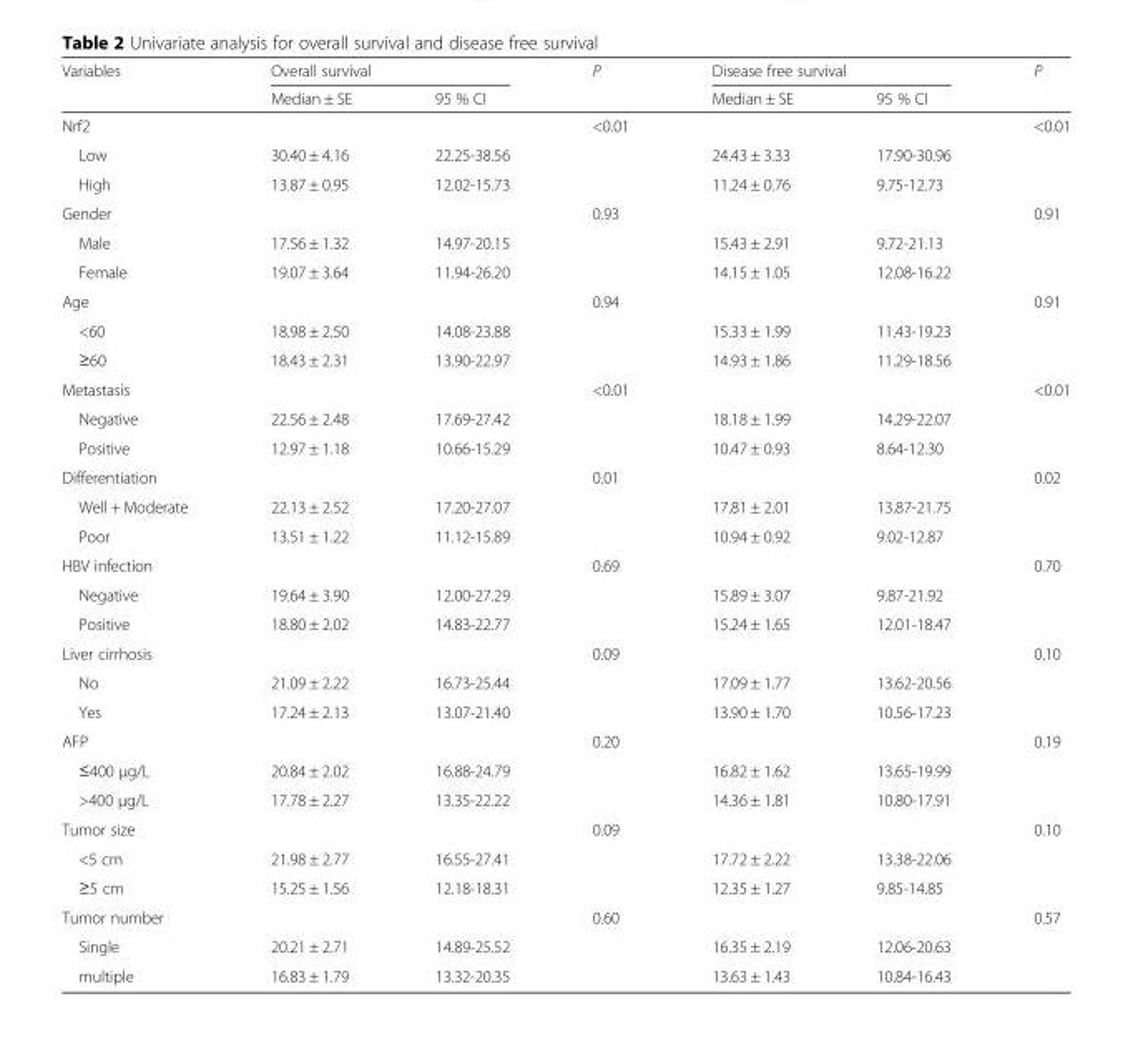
<table><thead><tr><td rowspan="2">Variables</td><td colspan="2">Overall survival</td><td rowspan="2">P</td><td colspan="2">Disease free survival</td><td rowspan="2">P</td></tr><tr><td>Median ± SE</td><td>95 % CI</td><td>Median ± SE</td><td>95 % CI</td></tr></thead><tbody><tr><td>Nrf2</td><td></td><td></td><td>&lt;0.01</td><td></td><td></td><td>&lt;0.01</td></tr><tr><td>Low</td><td>30.40 ± 4.16</td><td>22.25-38.56</td><td></td><td>24.43 ± 3.33</td><td>17.90-30.96</td><td></td></tr><tr><td>High</td><td>13.87 ± 0.95</td><td>12.02-15.73</td><td></td><td>11.24 ± 0.76</td><td>9.75-12.73</td><td></td></tr><tr><td>Gender</td><td></td><td></td><td>0.93</td><td></td><td></td><td>0.91</td></tr><tr><td>Male</td><td>17.56 ± 1.32</td><td>14.97-20.15</td><td></td><td>15.43 ± 2.91</td><td>9.72-21.13</td><td></td></tr><tr><td>Female</td><td>19.07 ± 3.64</td><td>11.94-26.20</td><td></td><td>14.15 ± 1.05</td><td>12.08-16.22</td><td></td></tr><tr><td>Age</td><td></td><td></td><td>0.94</td><td></td><td></td><td>0.91</td></tr><tr><td>&lt;60</td><td>18.98 ± 2.50</td><td>14.08-23.88</td><td></td><td>15.33 ± 1.99</td><td>11.43-19.23</td><td></td></tr><tr><td>≥60</td><td>18.43 ± 2.31</td><td>13.90-22.97</td><td></td><td>14.93 ± 1.86</td><td>11.29-18.56</td><td></td></tr><tr><td>Metastasis</td><td></td><td></td><td>&lt;0.01</td><td></td><td></td><td>&lt;0.01</td></tr><tr><td>Negative</td><td>22.56 ± 2.48</td><td>17.69-27.42</td><td></td><td>18.18 ± 1.99</td><td>14.29-22.07</td><td></td></tr><tr><td>Positive</td><td>12.97 ± 1.18</td><td>10.66-15.29</td><td></td><td>10.47 ± 0.93</td><td>8.64-12.30</td><td></td></tr><tr><td>Differentiation</td><td></td><td></td><td>0.01</td><td></td><td></td><td>0.02</td></tr><tr><td>Well + Moderate</td><td>22.13 ± 2.52</td><td>17.20-27.07</td><td></td><td>17.81 ± 2.01</td><td>13.87-21.75</td><td></td></tr><tr><td>Poor</td><td>13.51 ± 1.22</td><td>11.12-15.89</td><td></td><td>10.94 ± 0.92</td><td>9.02-12.87</td><td></td></tr><tr><td>HBV infection</td><td></td><td></td><td>0.69</td><td></td><td></td><td>0.70</td></tr><tr><td>Negative</td><td>19.64 ± 3.90</td><td>12.00-27.29</td><td></td><td>15.89 ± 3.07</td><td>9.87-21.92</td><td></td></tr><tr><td>Positive</td><td>18.80 ± 2.02</td><td>14.83-22.77</td><td></td><td>15.24 ± 1.65</td><td>12.01-18.47</td><td></td></tr><tr><td>Liver cirrhosis</td><td></td><td></td><td>0.09</td><td></td><td></td><td>0.10</td></tr><tr><td>No</td><td>21.09 ± 2.22</td><td>16.73-25.44</td><td></td><td>17.09 ± 1.77</td><td>13.62-20.56</td><td></td></tr><tr><td>Yes</td><td>17.24 ± 2.13</td><td>13.07-21.40</td><td></td><td>13.90 ± 1.70</td><td>10.56-17.23</td><td></td></tr><tr><td>AFP</td><td></td><td></td><td>0.20</td><td></td><td></td><td>0.19</td></tr><tr><td>≤400 μg/L</td><td>20.84 ± 2.02</td><td>16.88-24.79</td><td></td><td>16.82 ± 1.62</td><td>13.65-19.99</td><td></td></tr><tr><td>&gt;400 μg/L</td><td>17.78 ± 2.27</td><td>13.35-22.22</td><td></td><td>14.36 ± 1.81</td><td>10.80-17.91</td><td></td></tr><tr><td>Tumor size</td><td></td><td></td><td>0.09</td><td></td><td></td><td>0.10</td></tr><tr><td>&lt;5 cm</td><td>21.98 ± 2.77</td><td>16.55-27.41</td><td></td><td>17.72 ± 2.22</td><td>13.38-22.06</td><td></td></tr><tr><td>≥5 cm</td><td>15.25 ± 1.56</td><td>12.18-18.31</td><td></td><td>12.35 ± 1.27</td><td>9.85-14.85</td><td></td></tr><tr><td>Tumor number</td><td></td><td></td><td>0.60</td><td></td><td></td><td>0.57</td></tr><tr><td>Single</td><td>20.21 ± 2.71</td><td>14.89-25.52</td><td></td><td>16.35 ± 2.19</td><td>12.06-20.63</td><td></td></tr><tr><td>multiple</td><td>16.83 ± 1.79</td><td>13.32-20.35</td><td></td><td>13.63 ± 1.43</td><td>10.84-16.43</td><td></td></tr></tbody></table>